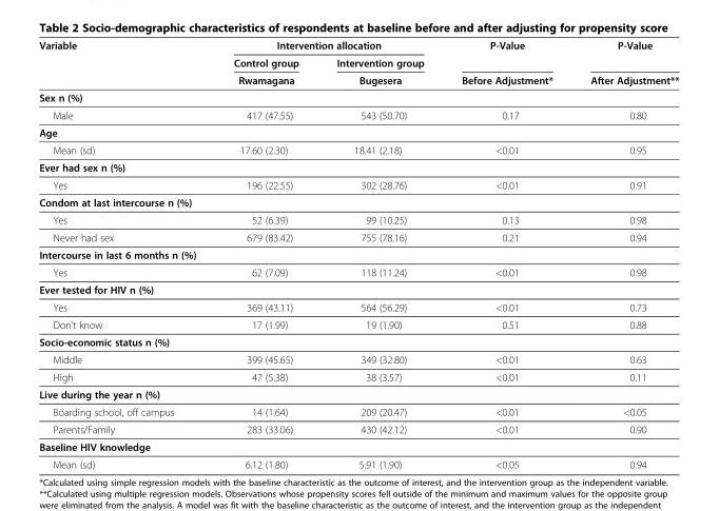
<table><thead><tr><td rowspan="3">Variable</td><td colspan="2">Intervention allocation</td><td rowspan="3">P-Value Before Adjustment*</td><td rowspan="3">P-Value After Adjustment**</td></tr><tr><td rowspan="2">Control group Rwamagana</td><td rowspan="2">Intervention group Bugesera</td></tr><tr></tr></thead><tbody><tr><td colspan="5">Sex n (%)</td></tr><tr><td>Male</td><td>417 (47.55)</td><td>543 (50.70)</td><td>0.17</td><td>0.80</td></tr><tr><td colspan="5">Age</td></tr><tr><td>Mean (sd)</td><td>17.60 (2.30)</td><td>18.41 (2.18)</td><td>&lt;0.01</td><td>0.95</td></tr><tr><td colspan="5">Ever had sex n (%)</td></tr><tr><td>Yes</td><td>196 (22.55)</td><td>302 (28.76)</td><td>&lt;0.01</td><td>0.91</td></tr><tr><td colspan="5">Condom at last intercourse n (%)</td></tr><tr><td>Yes</td><td>52 (6.39)</td><td>99 (10.25)</td><td>0.13</td><td>0.98</td></tr><tr><td>Never had sex</td><td>679 (83.42)</td><td>755 (78.16)</td><td>0.21</td><td>0.94</td></tr><tr><td colspan="5">Intercourse in last 6 months n (%)</td></tr><tr><td>Yes</td><td>62 (7.09)</td><td>118 (11.24)</td><td>&lt;0.01</td><td>0.98</td></tr><tr><td colspan="5">Ever tested for HIV n (%)</td></tr><tr><td>Yes</td><td>369 (43.11)</td><td>564 (56.29)</td><td>&lt;0.01</td><td>0.73</td></tr><tr><td>Don’t know</td><td>17 (1.99)</td><td>19 (1.90)</td><td>0.51</td><td>0.88</td></tr><tr><td colspan="5">Socio-economic status n (%)</td></tr><tr><td>Middle</td><td>399 (45.65)</td><td>349 (32.80)</td><td>&lt;0.01</td><td>0.63</td></tr><tr><td>High</td><td>47 (5.38)</td><td>38 (3.57)</td><td>&lt;0.01</td><td>0.11</td></tr><tr><td colspan="5">Live during the year n (%)</td></tr><tr><td>Boarding school, off campus</td><td>14 (1.64)</td><td>209 (20.47)</td><td>&lt;0.01</td><td>&lt;0.05</td></tr><tr><td>Parents/Family</td><td>283 (33.06)</td><td>430 (42.12)</td><td>&lt;0.01</td><td>0.90</td></tr><tr><td colspan="5">Baseline HIV knowledge</td></tr><tr><td>Mean (sd)</td><td>6.12 (1.80)</td><td>5.91 (1.90)</td><td>&lt;0.05</td><td>0.94</td></tr></tbody></table>